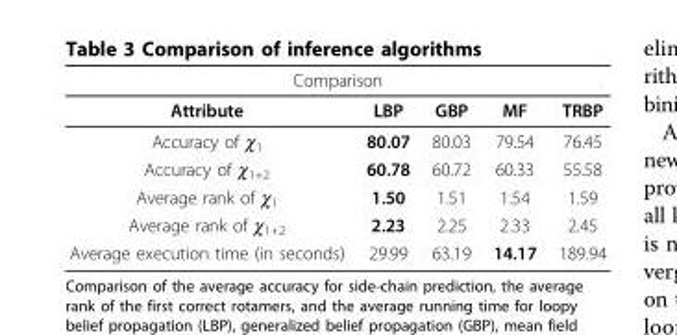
<table><thead><tr><td colspan="5">Comparison</td></tr><tr><td>Attribute</td><td>LBP</td><td>GBP</td><td>MF</td><td>TRBP</td></tr></thead><tbody><tr><td>Accuracy of χ<sub>1</sub></td><td>80.07</td><td>80.03</td><td>79.54</td><td>76.45</td></tr><tr><td>Accuracy of χ<sub>1+2</sub></td><td>60.78</td><td>60.72</td><td>60.33</td><td>55.58</td></tr><tr><td>Average rank of χ<sub>1</sub></td><td>1.50</td><td>1.51</td><td>1.54</td><td>1.59</td></tr><tr><td>Average rank of χ<sub>1+2</sub></td><td>2.23</td><td>2.25</td><td>2.33</td><td>2.45</td></tr><tr><td>Average execution time (in seconds)</td><td>29.99</td><td>63.19</td><td>14.17</td><td>189.94</td></tr></tbody></table>